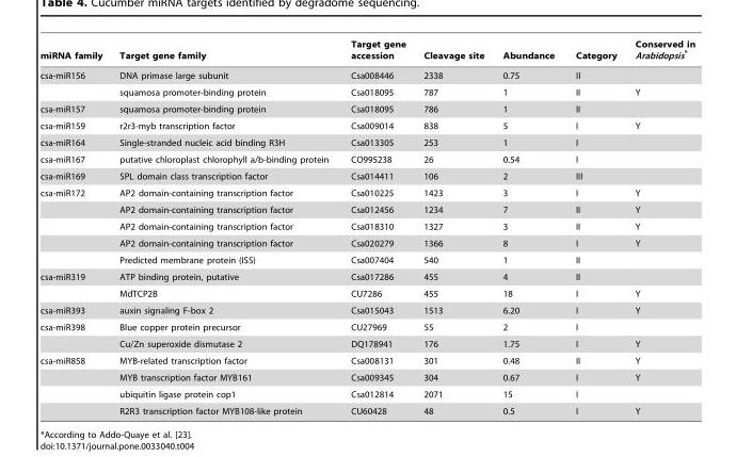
<table><thead><tr><td>miRNA family</td><td>Target gene family</td><td>Target gene accession</td><td>Cleavage site</td><td>Abundance</td><td>Category</td><td>Conserved in Arabidopsis*</td></tr></thead><tbody><tr><td rowspan="2">csa-miR156</td><td>DNA primase large subunit</td><td>Csa008446</td><td>2338</td><td>0.75</td><td>II</td><td></td></tr><tr><td>squamosa promoter-binding protein</td><td>Csa018095</td><td>787</td><td>1</td><td>II</td><td>Y</td></tr><tr><td>csa-miR157</td><td>squamosa promoter-binding protein</td><td>Csa018095</td><td>786</td><td>1</td><td>II</td><td></td></tr><tr><td>csa-miR159</td><td>r2r3-myb transcription factor</td><td>Csa009014</td><td>838</td><td>5</td><td>I</td><td>Y</td></tr><tr><td>csa-miR164</td><td>Single-stranded nucleic acid binding R3H</td><td>Csa013305</td><td>253</td><td>1</td><td>I</td><td></td></tr><tr><td>csa-miR167</td><td>putative chloroplast chlorophyll a/b-binding protein</td><td>CO995238</td><td>26</td><td>0.54</td><td>I</td><td></td></tr><tr><td>csa-miR169</td><td>SPL domain class transcription factor</td><td>Csa014411</td><td>106</td><td>2</td><td>III</td><td></td></tr><tr><td rowspan="5">csa-miR172</td><td>AP2 domain-containing transcription factor</td><td>Csa010225</td><td>1423</td><td>3</td><td>I</td><td>Y</td></tr><tr><td>AP2 domain-containing transcription factor</td><td>Csa012456</td><td>1234</td><td>7</td><td>II</td><td>Y</td></tr><tr><td>AP2 domain-containing transcription factor</td><td>Csa018310</td><td>1327</td><td>3</td><td>II</td><td>Y</td></tr><tr><td>AP2 domain-containing transcription factor</td><td>Csa020279</td><td>1366</td><td>8</td><td>I</td><td>Y</td></tr><tr><td>Predicted membrane protein (ISS)</td><td>Csa007404</td><td>540</td><td>1</td><td>II</td><td></td></tr><tr><td rowspan="2">csa-miR319</td><td>ATP binding protein, putative</td><td>Csa017286</td><td>455</td><td>4</td><td>II</td><td></td></tr><tr><td>MdTCP2B</td><td>CU7286</td><td>455</td><td>18</td><td>I</td><td>Y</td></tr><tr><td>csa-miR393</td><td>auxin signaling F-box 2</td><td>Csa015043</td><td>1513</td><td>6.20</td><td>I</td><td>Y</td></tr><tr><td rowspan="2">csa-miR398</td><td>Blue copper protein precursor</td><td>CU27969</td><td>55</td><td>2</td><td>I</td><td></td></tr><tr><td>Cu/Zn superoxide dismutase 2</td><td>DQ178941</td><td>176</td><td>1.75</td><td>I</td><td>Y</td></tr><tr><td rowspan="4">csa-miR858</td><td>MYB-related transcription factor</td><td>Csa008131</td><td>301</td><td>0.48</td><td>II</td><td>Y</td></tr><tr><td>MYB transcription factor MYB161</td><td>Csa009345</td><td>304</td><td>0.67</td><td>I</td><td>Y</td></tr><tr><td>ubiquitin ligase protein cop1</td><td>Csa012814</td><td>2071</td><td>15</td><td>I</td><td></td></tr><tr><td>R2R3 transcription factor MYB108-like protein</td><td>CU60428</td><td>48</td><td>0.5</td><td>I</td><td>Y</td></tr></tbody></table>